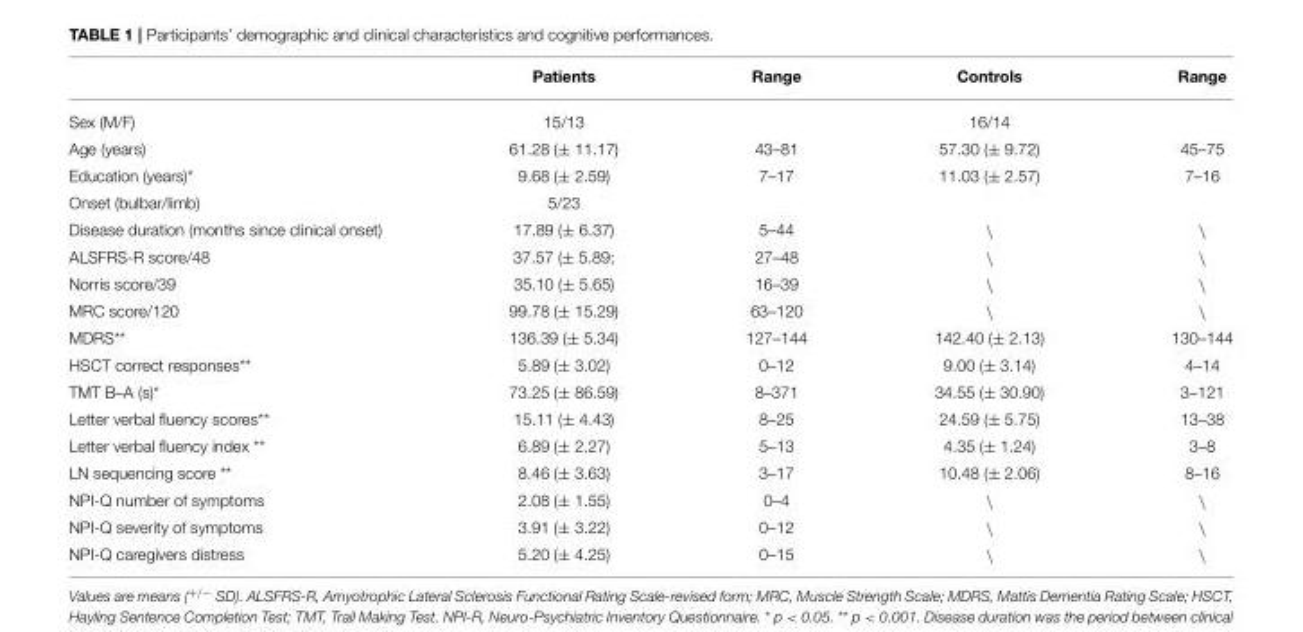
<table><thead><tr><td></td><td>Patients</td><td>Range</td><td>Controls</td><td>Range</td></tr></thead><tbody><tr><td>Sex (M/F)</td><td>15/13</td><td></td><td>16/14</td><td></td></tr><tr><td>Age (years)</td><td>61.28 (± 11.17)</td><td>43–81</td><td>57.30 (± 9.72)</td><td>45–75</td></tr><tr><td>Education (years)*</td><td>9.68 (± 2.59)</td><td>7–17</td><td>11.03 (± 2.57)</td><td>7–16</td></tr><tr><td>Onset (bulbar/limb)</td><td>5/23</td><td></td><td></td><td></td></tr><tr><td>Disease duration (months since clinical onset)</td><td>17.89 (± 6.37)</td><td>5–44</td><td>\</td><td>\</td></tr><tr><td>ALSFRS-R score/48</td><td>37.57 (± 5.89;</td><td>27–48</td><td>\</td><td>\</td></tr><tr><td>Norris score/39</td><td>35.10 (± 5.65)</td><td>16–39</td><td>\</td><td>\</td></tr><tr><td>MRC score/120</td><td>99.78 (± 15.29)</td><td>63–120</td><td>\</td><td>\</td></tr><tr><td>MDRS**</td><td>136.39 (± 5.34)</td><td>127–144</td><td>142.40 (± 2.13)</td><td>130–144</td></tr><tr><td>HSCT correct responses**</td><td>5.89 (± 3.02)</td><td>0–12</td><td>9.00 (± 3.14)</td><td>4–14</td></tr><tr><td>TMT B–A (s)*</td><td>73.25 (± 86.59)</td><td>8–371</td><td>34.55 (± 30.90)</td><td>3–121</td></tr><tr><td>Letter verbal fluency scores**</td><td>15.11 (± 4.43)</td><td>8–25</td><td>24.59 (± 5.75)</td><td>13–38</td></tr><tr><td>Letter verbal fluency index **</td><td>6.89 (± 2.27)</td><td>5–13</td><td>4.35 (± 1.24)</td><td>3–8</td></tr><tr><td>LN sequencing score **</td><td>8.46 (± 3.63)</td><td>3–17</td><td>10.48 (± 2.06)</td><td>8–16</td></tr><tr><td>NPI-Q number of symptoms</td><td>2.08 (± 1.55)</td><td>0–4</td><td>\</td><td>\</td></tr><tr><td>NPI-Q severity of symptoms</td><td>3.91 (± 3.22)</td><td>0–12</td><td>\</td><td>\</td></tr><tr><td>NPI-Q caregivers distress</td><td>5.20 (± 4.25)</td><td>0–15</td><td>\</td><td>\</td></tr></tbody></table>